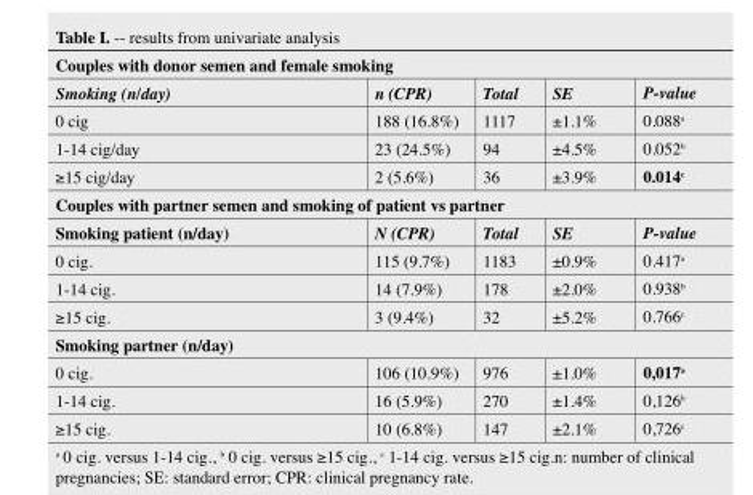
<table><thead><tr><td colspan="5">Couples with donor semen and female smoking</td></tr><tr><td>Smoking (n/day)</td><td>n (CPR)</td><td>Total</td><td>SE</td><td>P-value</td></tr></thead><tbody><tr><td>0 cig</td><td>188 (16.8%)</td><td>1117</td><td>±1.1%</td><td>0.088<sup>a</sup></td></tr><tr><td>1-14 cig/day</td><td>23 (24.5%)</td><td>94</td><td>±4.5%</td><td>0.052<sup>b</sup></td></tr><tr><td>≥15 cig/day</td><td>2 (5.6%)</td><td>36</td><td>±3.9%</td><td>0.014<sup>c</sup></td></tr><tr><td colspan="5">Couples with partner semen and smoking of patient vs partner</td></tr><tr><td>Smoking patient (n/day)</td><td>N (CPR)</td><td>Total</td><td>SE</td><td>P-value</td></tr><tr><td>0 cig.</td><td>115 (9.7%)</td><td>1183</td><td>±0.9%</td><td>0.417<sup>a</sup></td></tr><tr><td>1-14 cig.</td><td>14 (7.9%)</td><td>178</td><td>±2.0%</td><td>0.938<sup>b</sup></td></tr><tr><td>≥15 cig.</td><td>3 (9.4%)</td><td>32</td><td>±5.2%</td><td>0.766<sup>c</sup></td></tr><tr><td colspan="5">Smoking partner (n/day)</td></tr><tr><td>0 cig.</td><td>106 (10.9%)</td><td>976</td><td>±1.0%</td><td>0,017<sup>a</sup></td></tr><tr><td>1-14 cig.</td><td>16 (5.9%)</td><td>270</td><td>±1.4%</td><td>0,126<sup>b</sup></td></tr><tr><td>≥15 cig.</td><td>10 (6.8%)</td><td>147</td><td>±2.1%</td><td>0,726<sup>c</sup></td></tr></tbody></table>